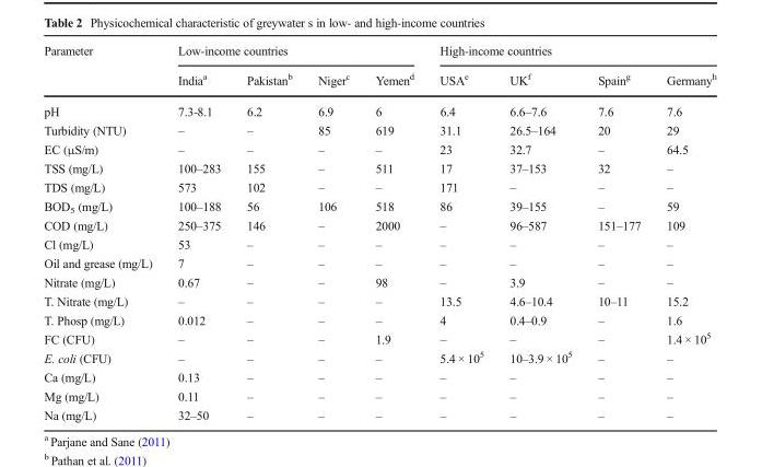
<table><thead><tr><td rowspan="2">Parameter</td><td colspan="4">Low-income countries</td><td colspan="4">High-income countries</td></tr><tr><td>India<sup>a</sup></td><td>Pakistan<sup>b</sup></td><td>Niger<sup>c</sup></td><td>Yemen<sup>d</sup></td><td>USA<sup>e</sup></td><td>UK<sup>f</sup></td><td>Spain<sup>g</sup></td><td>Germany<sup>h</sup></td></tr></thead><tbody><tr><td>pH</td><td>7.3-8.1</td><td>6.2</td><td>6.9</td><td>6</td><td>6.4</td><td>6.6–7.6</td><td>7.6</td><td>7.6</td></tr><tr><td>Turbidity (NTU)</td><td>–</td><td>–</td><td>85</td><td>619</td><td>31.1</td><td>26.5–164</td><td>20</td><td>29</td></tr><tr><td>EC (μS/m)</td><td>–</td><td>–</td><td>–</td><td>–</td><td>23</td><td>32.7</td><td>–</td><td>64.5</td></tr><tr><td>TSS (mg/L)</td><td>100–283</td><td>155</td><td>–</td><td>511</td><td>17</td><td>37–153</td><td>32</td><td>–</td></tr><tr><td>TDS (mg/L)</td><td>573</td><td>102</td><td>–</td><td>–</td><td>171</td><td>–</td><td>–</td><td>–</td></tr><tr><td>BOD<sub>5</sub> (mg/L)</td><td>100–188</td><td>56</td><td>106</td><td>518</td><td>86</td><td>39–155</td><td>–</td><td>59</td></tr><tr><td>COD (mg/L)</td><td>250–375</td><td>146</td><td>–</td><td>2000</td><td>–</td><td>96–587</td><td>151–177</td><td>109</td></tr><tr><td>Cl (mg/L)</td><td>53</td><td>–</td><td>–</td><td>–</td><td>–</td><td>–</td><td>–</td><td>–</td></tr><tr><td>Oil and grease (mg/L)</td><td>7</td><td>–</td><td>–</td><td>–</td><td>–</td><td>–</td><td>–</td><td>–</td></tr><tr><td>Nitrate (mg/L)</td><td>0.67</td><td>–</td><td>–</td><td>98</td><td>–</td><td>3.9</td><td>–</td><td>–</td></tr><tr><td>T. Nitrate (mg/L)</td><td>–</td><td>–</td><td>–</td><td>–</td><td>13.5</td><td>4.6–10.4</td><td>10–11</td><td>15.2</td></tr><tr><td>T. Phosp (mg/L)</td><td>0.012</td><td>–</td><td>–</td><td>–</td><td>4</td><td>0.4–0.9</td><td>–</td><td>1.6</td></tr><tr><td>FC (CFU)</td><td>–</td><td>–</td><td>–</td><td>1.9</td><td>–</td><td>–</td><td>–</td><td>1.4 × 10<sup>5</sup></td></tr><tr><td>E. coli (CFU)</td><td>–</td><td>–</td><td>–</td><td>–</td><td>5.4 × 10<sup>5</sup></td><td>10–3.9 × 10<sup>5</sup></td><td>–</td><td>–</td></tr><tr><td>Ca (mg/L)</td><td>0.13</td><td>–</td><td>–</td><td>–</td><td>–</td><td>–</td><td>–</td><td>–</td></tr><tr><td>Mg (mg/L)</td><td>0.11</td><td>–</td><td>–</td><td>–</td><td>–</td><td>–</td><td>–</td><td>–</td></tr><tr><td>Na (mg/L)</td><td>32–50</td><td>–</td><td>–</td><td>–</td><td>–</td><td>–</td><td>–</td><td>–</td></tr></tbody></table>